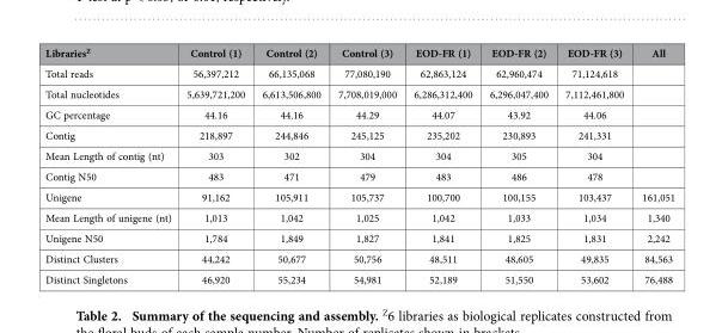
<table><thead><tr><td>Libraries<sup>Z</sup></td><td>Control (1)</td><td>Control (2)</td><td>Control (3)</td><td>EOD-FR (1)</td><td>EOD-FR (2)</td><td>EOD-FR (3)</td><td>All</td></tr></thead><tbody><tr><td>Total reads</td><td>56,397,212</td><td>66,135,068</td><td>77,080,190</td><td>62,863,124</td><td>62,960,474</td><td>71,124,618</td><td></td></tr><tr><td>Total nucleotides</td><td>5,639,721,200</td><td>6,613,506,800</td><td>7,708,019,000</td><td>6,286,312,400</td><td>6,296,047,400</td><td>7,112,461,800</td><td></td></tr><tr><td>GC percentage</td><td>44.16</td><td>44.16</td><td>44.29</td><td>44.07</td><td>43.92</td><td>44.06</td><td></td></tr><tr><td>Contig</td><td>218,897</td><td>244,846</td><td>245,125</td><td>235,202</td><td>230,893</td><td>241,331</td><td></td></tr><tr><td>Mean Length of contig (nt)</td><td>303</td><td>302</td><td>304</td><td>304</td><td>305</td><td>304</td><td></td></tr><tr><td>Contig N50</td><td>483</td><td>471</td><td>479</td><td>483</td><td>486</td><td>478</td><td></td></tr><tr><td>Unigene</td><td>91,162</td><td>105,911</td><td>105,737</td><td>100,700</td><td>100,155</td><td>103,437</td><td>161,051</td></tr><tr><td>Mean Length of unigene (nt)</td><td>1,013</td><td>1,042</td><td>1,025</td><td>1,042</td><td>1,033</td><td>1,034</td><td>1,340</td></tr><tr><td>Unigene N50</td><td>1,784</td><td>1,849</td><td>1,827</td><td>1,841</td><td>1,825</td><td>1,831</td><td>2,242</td></tr><tr><td>Distinct Clusters</td><td>44,242</td><td>50,677</td><td>50,756</td><td>48,511</td><td>48,605</td><td>49,835</td><td>84,563</td></tr><tr><td>Distinct Singletons</td><td>46,920</td><td>55,234</td><td>54,981</td><td>52,189</td><td>51,550</td><td>53,602</td><td>76,488</td></tr></tbody></table>